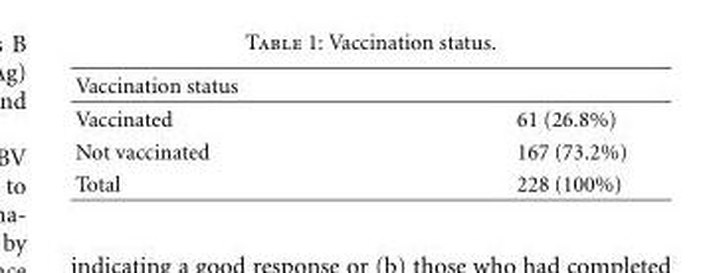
<table><thead><tr><td>Vaccination status</td><td></td></tr></thead><tbody><tr><td>Vaccinated</td><td>61 (26.8%)</td></tr><tr><td>Not vaccinated</td><td>167 (73.2%)</td></tr><tr><td>Total</td><td>228 (100%)</td></tr></tbody></table>